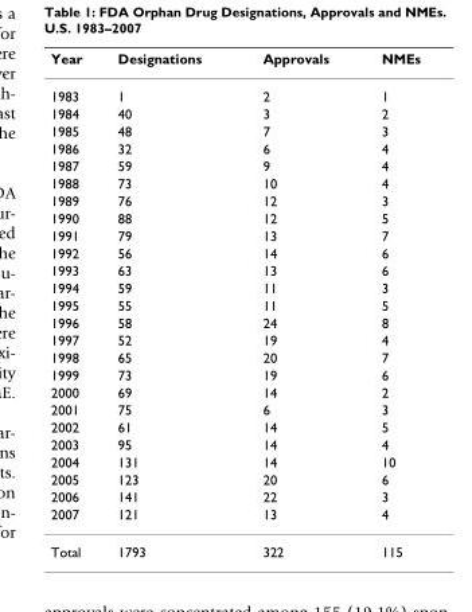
<table><thead><tr><td>Year</td><td>Designations</td><td>Approvals</td><td>NMEs</td></tr></thead><tbody><tr><td>1983</td><td>1</td><td>2</td><td>1</td></tr><tr><td>1984</td><td>40</td><td>3</td><td>2</td></tr><tr><td>1985</td><td>48</td><td>7</td><td>3</td></tr><tr><td>1986</td><td>32</td><td>6</td><td>4</td></tr><tr><td>1987</td><td>59</td><td>9</td><td>4</td></tr><tr><td>1988</td><td>73</td><td>10</td><td>4</td></tr><tr><td>1989</td><td>76</td><td>12</td><td>3</td></tr><tr><td>1990</td><td>88</td><td>12</td><td>5</td></tr><tr><td>1991</td><td>79</td><td>13</td><td>7</td></tr><tr><td>1992</td><td>56</td><td>14</td><td>6</td></tr><tr><td>1993</td><td>63</td><td>13</td><td>6</td></tr><tr><td>1994</td><td>59</td><td>11</td><td>3</td></tr><tr><td>1995</td><td>55</td><td>11</td><td>5</td></tr><tr><td>1996</td><td>58</td><td>24</td><td>8</td></tr><tr><td>1997</td><td>52</td><td>19</td><td>4</td></tr><tr><td>1998</td><td>65</td><td>20</td><td>7</td></tr><tr><td>1999</td><td>73</td><td>19</td><td>6</td></tr><tr><td>2000</td><td>69</td><td>14</td><td>2</td></tr><tr><td>2001</td><td>75</td><td>6</td><td>3</td></tr><tr><td>2002</td><td>61</td><td>14</td><td>5</td></tr><tr><td>2003</td><td>95</td><td>14</td><td>4</td></tr><tr><td>2004</td><td>131</td><td>14</td><td>10</td></tr><tr><td>2005</td><td>123</td><td>20</td><td>6</td></tr><tr><td>2006</td><td>141</td><td>22</td><td>3</td></tr><tr><td>2007</td><td>121</td><td>13</td><td>4</td></tr><tr><td>Total</td><td>1793</td><td>322</td><td>115</td></tr></tbody></table>